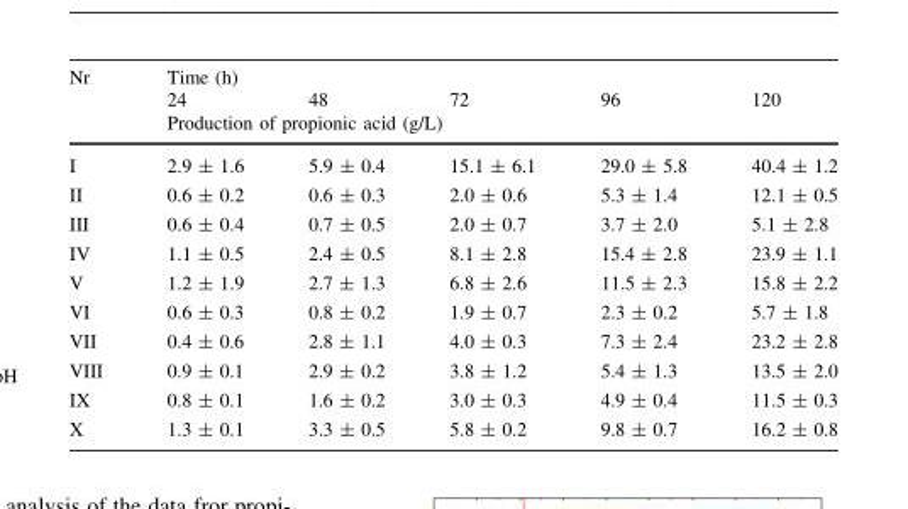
<table><thead><tr><td rowspan="3">Nr</td><td rowspan="2">Time (h) 24</td><td rowspan="2">48</td><td rowspan="2">72</td><td rowspan="2">96</td><td rowspan="2">120</td></tr><tr></tr><tr><td colspan="5">Production of propionic acid (g/L)</td></tr></thead><tbody><tr><td>I</td><td>2.9 ± 1.6</td><td>5.9 ± 0.4</td><td>15.1 ± 6.1</td><td>29.0 ± 5.8</td><td>40.4 ± 1.2</td></tr><tr><td>II</td><td>0.6 ± 0.2</td><td>0.6 ± 0.3</td><td>2.0 ± 0.6</td><td>5.3 ± 1.4</td><td>12.1 ± 0.5</td></tr><tr><td>III</td><td>0.6 ± 0.4</td><td>0.7 ± 0.5</td><td>2.0 ± 0.7</td><td>3.7 ± 2.0</td><td>5.1 ± 2.8</td></tr><tr><td>IV</td><td>1.1 ± 0.5</td><td>2.4 ± 0.5</td><td>8.1 ± 2.8</td><td>15.4 ± 2.8</td><td>23.9 ± 1.1</td></tr><tr><td>V</td><td>1.2 ± 1.9</td><td>2.7 ± 1.3</td><td>6.8 ± 2.6</td><td>11.5 ± 2.3</td><td>15.8 ± 2.2</td></tr><tr><td>VI</td><td>0.6 ± 0.3</td><td>0.8 ± 0.2</td><td>1.9 ± 0.7</td><td>2.3 ± 0.2</td><td>5.7 ± 1.8</td></tr><tr><td>VII</td><td>0.4 ± 0.6</td><td>2.8 ± 1.1</td><td>4.0 ± 0.3</td><td>7.3 ± 2.4</td><td>23.2 ± 2.8</td></tr><tr><td>VIII</td><td>0.9 ± 0.1</td><td>2.9 ± 0.2</td><td>3.8 ± 1.2</td><td>5.4 ± 1.3</td><td>13.5 ± 2.0</td></tr><tr><td>IX</td><td>0.8 ± 0.1</td><td>1.6 ± 0.2</td><td>3.0 ± 0.3</td><td>4.9 ± 0.4</td><td>11.5 ± 0.3</td></tr><tr><td>X</td><td>1.3 ± 0.1</td><td>3.3 ± 0.5</td><td>5.8 ± 0.2</td><td>9.8 ± 0.7</td><td>16.2 ± 0.8</td></tr></tbody></table>